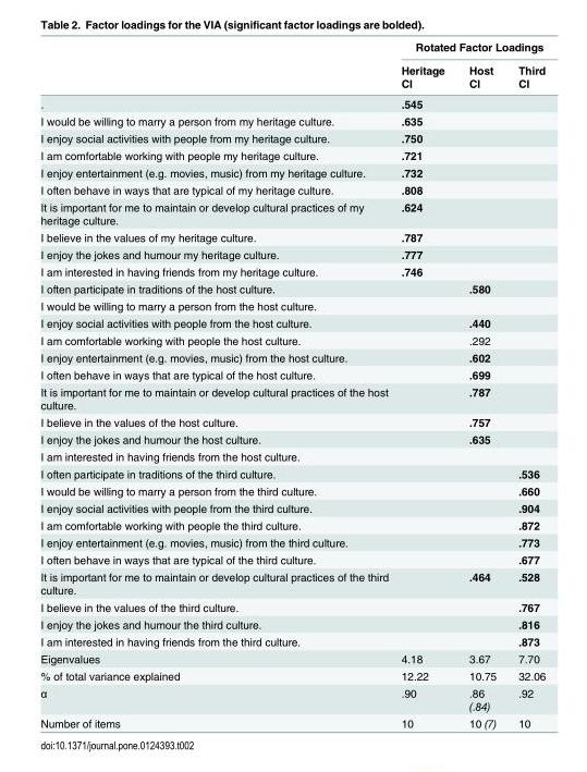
<table><thead><tr><td rowspan="2"></td><td colspan="3">Rotated Factor Loadings</td></tr><tr><td>Heritage CI</td><td>Host CI</td><td>Third CI</td></tr></thead><tbody><tr><td>.</td><td>.545</td><td></td><td></td></tr><tr><td>I would be willing to marry a person from my heritage culture.</td><td>.635</td><td></td><td></td></tr><tr><td>I enjoy social activities with people from my heritage culture.</td><td>.750</td><td></td><td></td></tr><tr><td>I am comfortable working with people my heritage culture.</td><td>.721</td><td></td><td></td></tr><tr><td>I enjoy entertainment (e.g. movies, music) from my heritage culture.</td><td>.732</td><td></td><td></td></tr><tr><td>I often behave in ways that are typical of my heritage culture.</td><td>.808</td><td></td><td></td></tr><tr><td>It is important for me to maintain or develop cultural practices of my heritage culture.</td><td>.624</td><td></td><td></td></tr><tr><td>I believe in the values of my heritage culture.</td><td>.787</td><td></td><td></td></tr><tr><td>I enjoy the jokes and humour my heritage culture.</td><td>.777</td><td></td><td></td></tr><tr><td>I am interested in having friends from my heritage culture.</td><td>.746</td><td></td><td></td></tr><tr><td>I often participate in traditions of the host culture.</td><td></td><td>.580</td><td></td></tr><tr><td colspan="4">I would be willing to marry a person from the host culture.</td></tr><tr><td>I enjoy social activities with people from the host culture.</td><td></td><td>.440</td><td></td></tr><tr><td>I am comfortable working with people the host culture.</td><td></td><td>.292</td><td></td></tr><tr><td>I enjoy entertainment (e.g. movies, music) from the host culture.</td><td></td><td>.602</td><td></td></tr><tr><td>I often behave in ways that are typical of the host culture.</td><td></td><td>.699</td><td></td></tr><tr><td>It is important for me to maintain or develop cultural practices of the host culture.</td><td></td><td>.787</td><td></td></tr><tr><td>I believe in the values of the host culture.</td><td></td><td>.757</td><td></td></tr><tr><td>I enjoy the jokes and humour the host culture.</td><td></td><td>.635</td><td></td></tr><tr><td colspan="4">I am interested in having friends from the host culture.</td></tr><tr><td>I often participate in traditions of the third culture.</td><td></td><td></td><td>.536</td></tr><tr><td>I would be willing to marry a person from the third culture.</td><td></td><td></td><td>.660</td></tr><tr><td>I enjoy social activities with people from the third culture.</td><td></td><td></td><td>.904</td></tr><tr><td>I am comfortable working with people the third culture.</td><td></td><td></td><td>.872</td></tr><tr><td>I enjoy entertainment (e.g. movies, music) from the third culture.</td><td></td><td></td><td>.773</td></tr><tr><td>I often behave in ways that are typical of the third culture.</td><td></td><td></td><td>.677</td></tr><tr><td>It is important for me to maintain or develop cultural practices of the third culture.</td><td></td><td>.464</td><td>.528</td></tr><tr><td>I believe in the values of the third culture.</td><td></td><td></td><td>.767</td></tr><tr><td>I enjoy the jokes and humour the third culture.</td><td></td><td></td><td>.816</td></tr><tr><td>I am interested in having friends from the third culture.</td><td></td><td></td><td>.873</td></tr><tr><td>Eigenvalues</td><td>4.18</td><td>3.67</td><td>7.70</td></tr><tr><td>% of total variance explained</td><td>12.22</td><td>10.75</td><td>32.06</td></tr><tr><td>α</td><td>.90</td><td>.86 (.84)</td><td>.92</td></tr><tr><td>Number of items</td><td>10</td><td>10 (7)</td><td>10</td></tr></tbody></table>